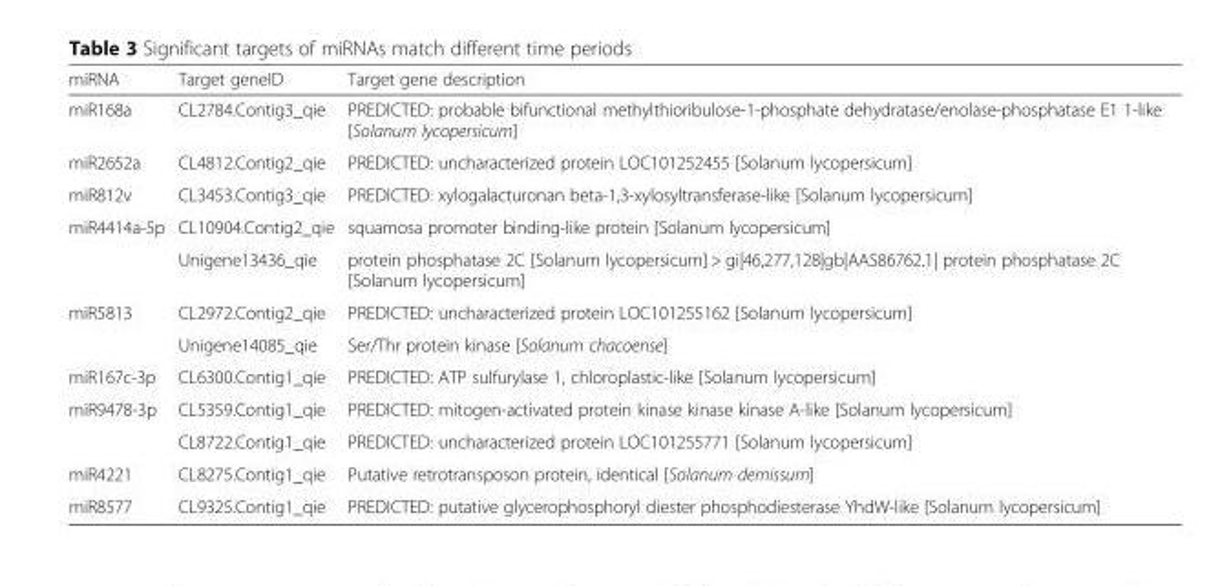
<table><thead><tr><td>miRNA</td><td>Target geneID</td><td>Target gene description</td></tr></thead><tbody><tr><td>miR168a</td><td>CL2784.Contig3_qie</td><td>PREDICTED: probable bifunctional methylthioribulose-1-phosphate dehydratase/enolase-phosphatase E1 1-like [Solanum lycopersicum]</td></tr><tr><td>miR2652a</td><td>CL4812.Contig2_qie</td><td>PREDICTED: uncharacterized protein LOC101252455 [Solanum lycopersicum]</td></tr><tr><td>miR812v</td><td>CL3453.Contig3_qie</td><td>PREDICTED: xylogalacturonan beta-1,3-xylosyltransferase-like [Solanum lycopersicum]</td></tr><tr><td rowspan="2">miR4414a-5p</td><td>CL10904.Contig2_qie</td><td>squamosa promoter binding-like protein [Solanum lycopersicum]</td></tr><tr><td>Unigene13436_qie</td><td>protein phosphatase 2C [Solanum lycopersicum] &gt; gi|46,277,128|gb|AAS86762.1| protein phosphatase 2C [Solanum lycopersicum]</td></tr><tr><td rowspan="2">miR5813</td><td>CL2972.Contig2_qie</td><td>PREDICTED: uncharacterized protein LOC101255162 [Solanum lycopersicum]</td></tr><tr><td>Unigene14085_qie</td><td>Ser/Thr protein kinase [Solanum chacoense]</td></tr><tr><td>miR167c-3p</td><td>CL6300.Contig1_qie</td><td>PREDICTED: ATP sulfurylase 1, chloroplastic-like [Solanum lycopersicum]</td></tr><tr><td rowspan="2">miR9478-3p</td><td>CL5359.Contig1_qie</td><td>PREDICTED: mitogen-activated protein kinase kinase kinase A-like [Solanum lycopersicum]</td></tr><tr><td>CL8722.Contig1_qie</td><td>PREDICTED: uncharacterized protein LOC101255771 [Solanum lycopersicum]</td></tr><tr><td>miR4221</td><td>CL8275.Contig1_qie</td><td>Putative retrotransposon protein, identical [Solanum demissum]</td></tr><tr><td>miR8577</td><td>CL9325.Contig1_qie</td><td>PREDICTED: putative glycerophosphoryl diester phosphodiesterase YhdW-like [Solanum lycopersicum]</td></tr></tbody></table>